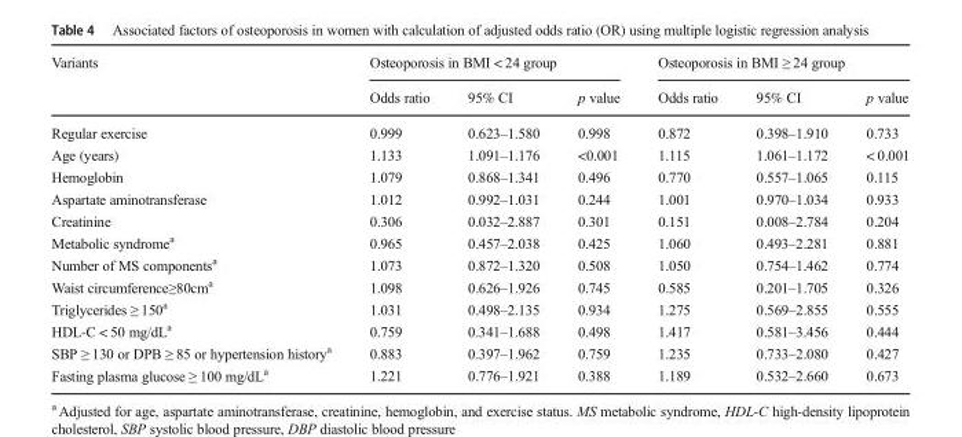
<table><thead><tr><td rowspan="2">Variants</td><td colspan="3">Osteoporosis in BMI &lt; 24 group</td><td colspan="3">Osteoporosis in BMI ≥ 24 group</td></tr><tr><td>Odds ratio</td><td>95% CI</td><td>p value</td><td>Odds ratio</td><td>95% CI</td><td>p value</td></tr></thead><tbody><tr><td>Regular exercise</td><td>0.999</td><td>0.623–1.580</td><td>0.998</td><td>0.872</td><td>0.398–1.910</td><td>0.733</td></tr><tr><td>Age (years)</td><td>1.133</td><td>1.091–1.176</td><td>&lt;0.001</td><td>1.115</td><td>1.061–1.172</td><td>&lt; 0.001</td></tr><tr><td>Hemoglobin</td><td>1.079</td><td>0.868–1.341</td><td>0.496</td><td>0.770</td><td>0.557–1.065</td><td>0.115</td></tr><tr><td>Aspartate aminotransferase</td><td>1.012</td><td>0.992–1.031</td><td>0.244</td><td>1.001</td><td>0.970–1.034</td><td>0.933</td></tr><tr><td>Creatinine</td><td>0.306</td><td>0.032–2.887</td><td>0.301</td><td>0.151</td><td>0.008–2.784</td><td>0.204</td></tr><tr><td>Metabolic syndrome<sup>a</sup></td><td>0.965</td><td>0.457–2.038</td><td>0.425</td><td>1.060</td><td>0.493–2.281</td><td>0.881</td></tr><tr><td>Number of MS components<sup>a</sup></td><td>1.073</td><td>0.872–1.320</td><td>0.508</td><td>1.050</td><td>0.754–1.462</td><td>0.774</td></tr><tr><td>Waist circumference≥80cm<sup>a</sup></td><td>1.098</td><td>0.626–1.926</td><td>0.745</td><td>0.585</td><td>0.201–1.705</td><td>0.326</td></tr><tr><td>Triglycerides ≥ 150<sup>a</sup></td><td>1.031</td><td>0.498–2.135</td><td>0.934</td><td>1.275</td><td>0.569–2.855</td><td>0.555</td></tr><tr><td>HDL-C &lt; 50 mg/dL<sup>a</sup></td><td>0.759</td><td>0.341–1.688</td><td>0.498</td><td>1.417</td><td>0.581–3.456</td><td>0.444</td></tr><tr><td>SBP ≥ 130 or DPB ≥ 85 or hypertension history<sup>a</sup></td><td>0.883</td><td>0.397–1.962</td><td>0.759</td><td>1.235</td><td>0.733–2.080</td><td>0.427</td></tr><tr><td>Fasting plasma glucose ≥ 100 mg/dL<sup>a</sup></td><td>1.221</td><td>0.776–1.921</td><td>0.388</td><td>1.189</td><td>0.532–2.660</td><td>0.673</td></tr></tbody></table>